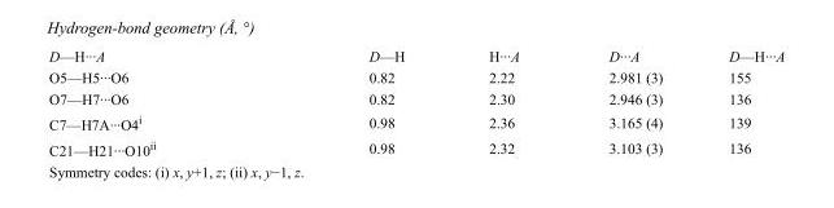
<table><tbody><tr><td>D—H···A</td><td>D—H</td><td>H···A</td><td>D···A</td><td>D—H···A</td></tr><tr><td>O5—H5···O6</td><td>0.82</td><td>2.22</td><td>2.981 (3)</td><td>155</td></tr><tr><td>O7—H7···O6</td><td>0.82</td><td>2.30</td><td>2.946 (3)</td><td>136</td></tr><tr><td>C7—H7A···O4<sup>i</sup></td><td>0.98</td><td>2.36</td><td>3.165 (4)</td><td>139</td></tr><tr><td>C21—H21···O10<sup>ii</sup></td><td>0.98</td><td>2.32</td><td>3.103 (3)</td><td>136</td></tr></tbody></table>